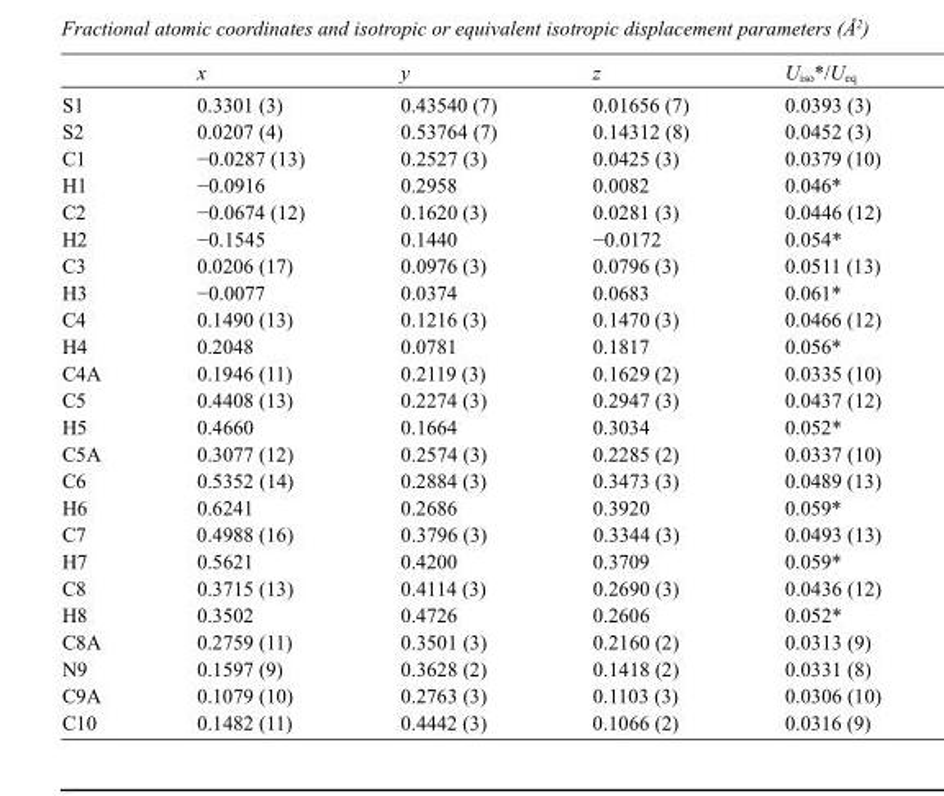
<table><thead><tr><td></td><td>x</td><td>y</td><td>z</td><td>U<sub>iso</sub>*/U<sub>eq</sub></td></tr></thead><tbody><tr><td>S1</td><td>0.3301 (3)</td><td>0.43540 (7)</td><td>0.01656 (7)</td><td>0.0393 (3)</td></tr><tr><td>S2</td><td>0.0207 (4)</td><td>0.53764 (7)</td><td>0.14312 (8)</td><td>0.0452 (3)</td></tr><tr><td>C1</td><td>−0.0287 (13)</td><td>0.2527 (3)</td><td>0.0425 (3)</td><td>0.0379 (10)</td></tr><tr><td>H1</td><td>−0.0916</td><td>0.2958</td><td>0.0082</td><td>0.046*</td></tr><tr><td>C2</td><td>−0.0674 (12)</td><td>0.1620 (3)</td><td>0.0281 (3)</td><td>0.0446 (12)</td></tr><tr><td>H2</td><td>−0.1545</td><td>0.1440</td><td>−0.0172</td><td>0.054*</td></tr><tr><td>C3</td><td>0.0206 (17)</td><td>0.0976 (3)</td><td>0.0796 (3)</td><td>0.0511 (13)</td></tr><tr><td>H3</td><td>−0.0077</td><td>0.0374</td><td>0.0683</td><td>0.061*</td></tr><tr><td>C4</td><td>0.1490 (13)</td><td>0.1216 (3)</td><td>0.1470 (3)</td><td>0.0466 (12)</td></tr><tr><td>H4</td><td>0.2048</td><td>0.0781</td><td>0.1817</td><td>0.056*</td></tr><tr><td>C4A</td><td>0.1946 (11)</td><td>0.2119 (3)</td><td>0.1629 (2)</td><td>0.0335 (10)</td></tr><tr><td>C5</td><td>0.4408 (13)</td><td>0.2274 (3)</td><td>0.2947 (3)</td><td>0.0437 (12)</td></tr><tr><td>H5</td><td>0.4660</td><td>0.1664</td><td>0.3034</td><td>0.052*</td></tr><tr><td>C5A</td><td>0.3077 (12)</td><td>0.2574 (3)</td><td>0.2285 (2)</td><td>0.0337 (10)</td></tr><tr><td>C6</td><td>0.5352 (14)</td><td>0.2884 (3)</td><td>0.3473 (3)</td><td>0.0489 (13)</td></tr><tr><td>H6</td><td>0.6241</td><td>0.2686</td><td>0.3920</td><td>0.059*</td></tr><tr><td>C7</td><td>0.4988 (16)</td><td>0.3796 (3)</td><td>0.3344 (3)</td><td>0.0493 (13)</td></tr><tr><td>H7</td><td>0.5621</td><td>0.4200</td><td>0.3709</td><td>0.059*</td></tr><tr><td>C8</td><td>0.3715 (13)</td><td>0.4114 (3)</td><td>0.2690 (3)</td><td>0.0436 (12)</td></tr><tr><td>H8</td><td>0.3502</td><td>0.4726</td><td>0.2606</td><td>0.052*</td></tr><tr><td>C8A</td><td>0.2759 (11)</td><td>0.3501 (3)</td><td>0.2160 (2)</td><td>0.0313 (9)</td></tr><tr><td>N9</td><td>0.1597 (9)</td><td>0.3628 (2)</td><td>0.1418 (2)</td><td>0.0331 (8)</td></tr><tr><td>C9A</td><td>0.1079 (10)</td><td>0.2763 (3)</td><td>0.1103 (3)</td><td>0.0306 (10)</td></tr><tr><td>C10</td><td>0.1482 (11)</td><td>0.4442 (3)</td><td>0.1066 (2)</td><td>0.0316 (9)</td></tr></tbody></table>